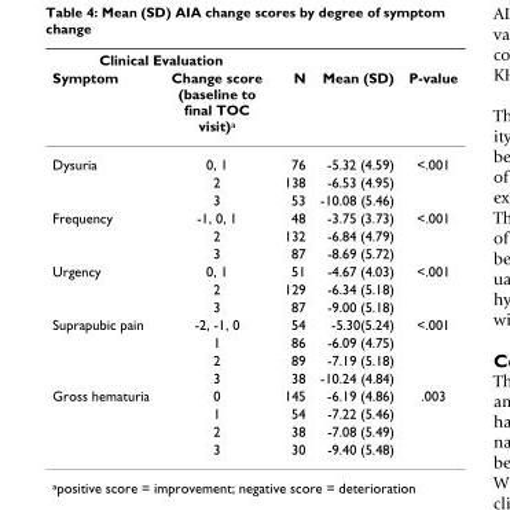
<table><thead><tr><td colspan="2">Clinical Evaluation</td><td rowspan="2">N</td><td rowspan="2">Mean (SD)</td><td rowspan="2">P-value</td></tr><tr><td>Symptom</td><td>Change score (baseline to final TOC visit)<sup>a</sup></td></tr></thead><tbody><tr><td rowspan="3">Dysuria</td><td>0, 1</td><td>76</td><td>-5.32 (4.59)</td><td>&lt;.001</td></tr><tr><td>2</td><td>138</td><td>-6.53 (4.95)</td><td></td></tr><tr><td>3</td><td>53</td><td>-10.08 (5.46)</td><td></td></tr><tr><td rowspan="3">Frequency</td><td>-1, 0, 1</td><td>48</td><td>-3.75 (3.73)</td><td>&lt;.001</td></tr><tr><td>2</td><td>132</td><td>-6.84 (4.79)</td><td></td></tr><tr><td>3</td><td>87</td><td>-8.69 (5.72)</td><td></td></tr><tr><td rowspan="3">Urgency</td><td>0, 1</td><td>51</td><td>-4.67 (4.03)</td><td>&lt;.001</td></tr><tr><td>2</td><td>129</td><td>-6.34 (5.18)</td><td></td></tr><tr><td>3</td><td>87</td><td>-9.00 (5.18)</td><td></td></tr><tr><td rowspan="4">Suprapubic pain</td><td>-2, -1, 0</td><td>54</td><td>-5.30(5.24)</td><td>&lt;.001</td></tr><tr><td>1</td><td>86</td><td>-6.09 (4.75)</td><td></td></tr><tr><td>2</td><td>89</td><td>-7.19 (5.18)</td><td></td></tr><tr><td>3</td><td>38</td><td>-10.24 (4.84)</td><td></td></tr><tr><td rowspan="4">Gross hematuria</td><td>0</td><td>145</td><td>-6.19 (4.86)</td><td>.003</td></tr><tr><td>1</td><td>54</td><td>-7.22 (5.46)</td><td></td></tr><tr><td>2</td><td>38</td><td>-7.08 (5.49)</td><td></td></tr><tr><td>3</td><td>30</td><td>-9.40 (5.48)</td><td></td></tr></tbody></table>